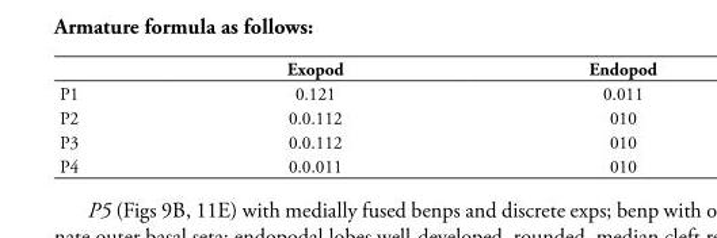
<table><thead><tr><td></td><td>Exopod</td><td>Endopod</td></tr></thead><tbody><tr><td>P1</td><td>0.121</td><td>0.011</td></tr><tr><td>P2</td><td>0.0.112</td><td>010</td></tr><tr><td>P3</td><td>0.0.112</td><td>010</td></tr><tr><td>P4</td><td>0.0.011</td><td>010</td></tr></tbody></table>